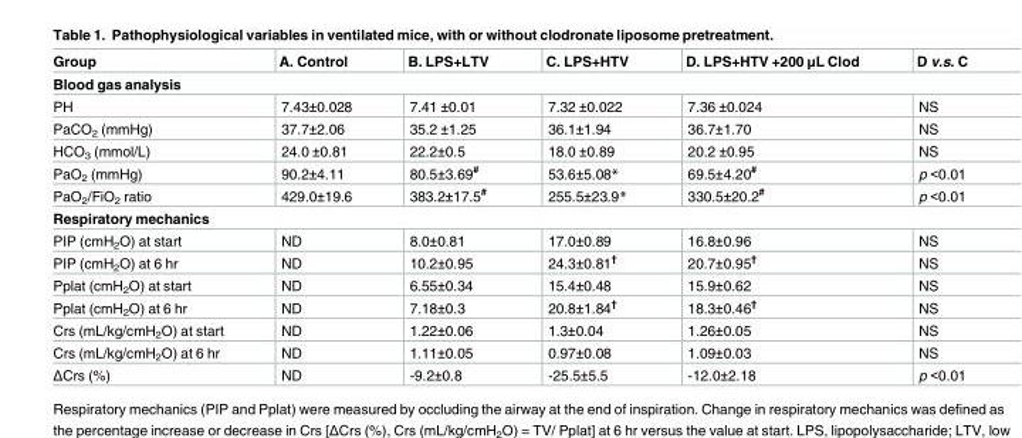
<table><thead><tr><td>Group</td><td>A. Control</td><td>B. LPS+LTV</td><td>C. LPS+HTV</td><td>D. LPS+HTV +200 μL Clod</td><td>D v.s. C</td></tr></thead><tbody><tr><td colspan="6">Blood gas analysis</td></tr><tr><td>PH</td><td>7.43±0.028</td><td>7.41 ±0.01</td><td>7.32 ±0.022</td><td>7.36 ±0.024</td><td>NS</td></tr><tr><td>PaCO<sub>2</sub> (mmHg)</td><td>37.7±2.06</td><td>35.2 ±1.25</td><td>36.1±1.94</td><td>36.7±1.70</td><td>NS</td></tr><tr><td>HCO<sub>3</sub> (mmol/L)</td><td>24.0 ±0.81</td><td>22.2±0.5</td><td>18.0 ±0.89</td><td>20.2 ±0.95</td><td>NS</td></tr><tr><td>PaO<sub>2</sub> (mmHg)</td><td>90.2±4.11</td><td>80.5±3.69<sup>#</sup></td><td>53.6±5.08*</td><td>69.5±4.20<sup>#</sup></td><td>p &lt;0.01</td></tr><tr><td>PaO<sub>2</sub>/FiO<sub>2</sub> ratio</td><td>429.0±19.6</td><td>383.2±17.5<sup>#</sup></td><td>255.5±23.9*</td><td>330.5±20.2<sup>#</sup></td><td>p &lt;0.01</td></tr><tr><td colspan="6">Respiratory mechanics</td></tr><tr><td>PIP (cmH<sub>2</sub>O) at start</td><td>ND</td><td>8.0±0.81</td><td>17.0±0.89</td><td>16.8±0.96</td><td>NS</td></tr><tr><td>PIP (cmH<sub>2</sub>O) at 6 hr</td><td>ND</td><td>10.2±0.95</td><td>24.3±0.81<sup>†</sup></td><td>20.7±0.95<sup>†</sup></td><td>NS</td></tr><tr><td>Pplat (cmH<sub>2</sub>O) at start</td><td>ND</td><td>6.55±0.34</td><td>15.4±0.48</td><td>15.9±0.62</td><td>NS</td></tr><tr><td>Pplat (cmH<sub>2</sub>O) at 6 hr</td><td>ND</td><td>7.18±0.3</td><td>20.8±1.84<sup>†</sup></td><td>18.3±0.46<sup>†</sup></td><td>NS</td></tr><tr><td>Crs (mL/kg/cmH<sub>2</sub>O) at start</td><td>ND</td><td>1.22±0.06</td><td>1.3±0.04</td><td>1.26±0.05</td><td>NS</td></tr><tr><td>Crs (mL/kg/cmH<sub>2</sub>O) at 6 hr</td><td>ND</td><td>1.11±0.05</td><td>0.97±0.08</td><td>1.09±0.03</td><td>NS</td></tr><tr><td>ΔCrs (%)</td><td>ND</td><td>-9.2±0.8</td><td>-25.5±5.5</td><td>-12.0±2.18</td><td>p &lt;0.01</td></tr></tbody></table>